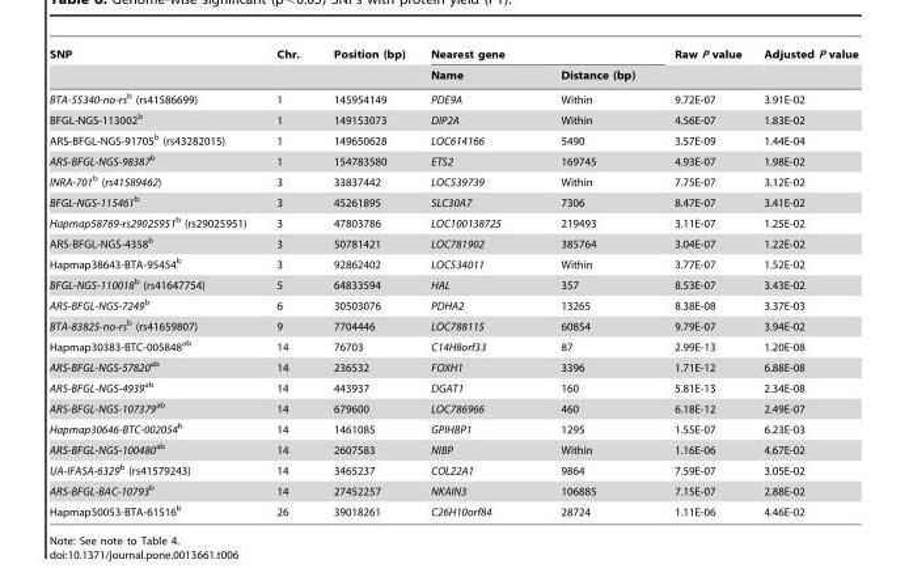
<table><thead><tr><td rowspan="2">SNP</td><td rowspan="2">Chr.</td><td rowspan="2">Position (bp)</td><td colspan="2">Nearest gene</td><td rowspan="2">Raw P value</td><td rowspan="2">Adjusted P value</td></tr><tr><td>Name</td><td>Distance (bp)</td></tr></thead><tbody><tr><td>BTA-55340-no-rs<sup>b</sup> (rs41586699)</td><td>1</td><td>145954149</td><td>PDE9A</td><td>Within</td><td>9.72E-07</td><td>3.91E-02</td></tr><tr><td>BFGL-NGS-113002<sup>b</sup></td><td>1</td><td>149153073</td><td>DIP2A</td><td>Within</td><td>4.56E-07</td><td>1.83E-02</td></tr><tr><td>ARS-BFGL-NGS-91705<sup>b</sup> (rs43282015)</td><td>1</td><td>149650628</td><td>LOC614166</td><td>5490</td><td>3.57E-09</td><td>1.44E-04</td></tr><tr><td>ARS-BFGL-NGS-98387<sup>b</sup></td><td>1</td><td>154783580</td><td>ETS2</td><td>169745</td><td>4.93E-07</td><td>1.98E-02</td></tr><tr><td>INRA-701<sup>b</sup> (rs41589462)</td><td>3</td><td>33837442</td><td>LOC539739</td><td>Within</td><td>7.75E-07</td><td>3.12E-02</td></tr><tr><td>BFGL-NGS-115461<sup>b</sup></td><td>3</td><td>45261895</td><td>SLC30A7</td><td>7306</td><td>8.47E-07</td><td>3.41E-02</td></tr><tr><td>Hapmap58769-rs29025951<sup>b</sup> (rs29025951)</td><td>3</td><td>47803786</td><td>LOC100138725</td><td>219493</td><td>3.11E-07</td><td>1.25E-02</td></tr><tr><td>ARS-BFGL-NGS-4358<sup>b</sup></td><td>3</td><td>50781421</td><td>LOC781902</td><td>385764</td><td>3.04E-07</td><td>1.22E-02</td></tr><tr><td>Hapmap38643-BTA-95454<sup>b</sup></td><td>3</td><td>92862402</td><td>LOC534011</td><td>Within</td><td>3.77E-07</td><td>1.52E-02</td></tr><tr><td>BFGL-NGS-110018<sup>b</sup> (rs41647754)</td><td>5</td><td>64833594</td><td>HAL</td><td>357</td><td>8.53E-07</td><td>3.43E-02</td></tr><tr><td>ARS-BFGL-NGS-7249<sup>b</sup></td><td>6</td><td>30503076</td><td>PDHA2</td><td>13265</td><td>8.38E-08</td><td>3.37E-03</td></tr><tr><td>BTA-83825-no-rs<sup>b</sup> (rs41659807)</td><td>9</td><td>7704446</td><td>LOC788115</td><td>60854</td><td>9.79E-07</td><td>3.94E-02</td></tr><tr><td>Hapmap30383-BTC-005848<sup>ab</sup></td><td>14</td><td>76703</td><td>C14H8orf33</td><td>87</td><td>2.99E-13</td><td>1.20E-08</td></tr><tr><td>ARS-BFGL-NGS-57820<sup>ab</sup></td><td>14</td><td>236532</td><td>FOXH1</td><td>3396</td><td>1.71E-12</td><td>6.88E-08</td></tr><tr><td>ARS-BFGL-NGS-4939<sup>ab</sup></td><td>14</td><td>443937</td><td>DGAT1</td><td>160</td><td>5.81E-13</td><td>2.34E-08</td></tr><tr><td>ARS-BFGL-NGS-107379<sup>ab</sup></td><td>14</td><td>679600</td><td>LOC786966</td><td>460</td><td>6.18E-12</td><td>2.49E-07</td></tr><tr><td>Hapmap30646-BTC-002054<sup>b</sup></td><td>14</td><td>1461085</td><td>GPIHBP1</td><td>1295</td><td>1.55E-07</td><td>6.23E-03</td></tr><tr><td>ARS-BFGL-NGS-100480<sup>ab</sup></td><td>14</td><td>2607583</td><td>NIBP</td><td>Within</td><td>1.16E-06</td><td>4.67E-02</td></tr><tr><td>UA-IFASA-6329<sup>b</sup> (rs41579243)</td><td>14</td><td>3465237</td><td>COL22A1</td><td>9864</td><td>7.59E-07</td><td>3.05E-02</td></tr><tr><td>ARS-BFGL-BAC-10793<sup>b</sup></td><td>14</td><td>27452257</td><td>NKAIN3</td><td>106885</td><td>7.15E-07</td><td>2.88E-02</td></tr><tr><td>Hapmap50053-BTA-61516<sup>b</sup></td><td>26</td><td>39018261</td><td>C26H10orf84</td><td>28724</td><td>1.11E-06</td><td>4.46E-02</td></tr></tbody></table>